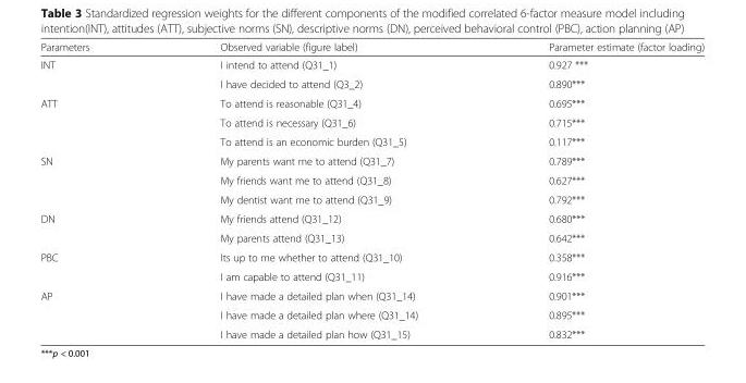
<table><thead><tr><td>Parameters</td><td>Observed variable (figure label)</td><td>Parameter estimate (factor loading)</td></tr></thead><tbody><tr><td rowspan="2">INT</td><td>I intend to attend (Q31_1)</td><td>0.927 ***</td></tr><tr><td>I have decided to attend (Q3_2)</td><td>0.890***</td></tr><tr><td rowspan="3">ATT</td><td>To attend is reasonable (Q31_4)</td><td>0.695***</td></tr><tr><td>To attend is necessary (Q31_6)</td><td>0.715***</td></tr><tr><td>To attend is an economic burden (Q31_5)</td><td>0.117***</td></tr><tr><td rowspan="3">SN</td><td>My parents want me to attend (Q31_7)</td><td>0.789***</td></tr><tr><td>My friends want me to attend (Q31_8)</td><td>0.627***</td></tr><tr><td>My dentist want me to attend (Q31_9)</td><td>0.792***</td></tr><tr><td rowspan="2">DN</td><td>My friends attend (Q31_12)</td><td>0.680***</td></tr><tr><td>My parents attend (Q31_13)</td><td>0.642***</td></tr><tr><td rowspan="2">PBC</td><td>Its up to me whether to attend (Q31_10)</td><td>0.358***</td></tr><tr><td>I am capable to attend (Q31_11)</td><td>0.916***</td></tr><tr><td rowspan="3">AP</td><td>I have made a detailed plan when (Q31_14)</td><td>0.901***</td></tr><tr><td>I have made a detailed plan where (Q31_14)</td><td>0.895***</td></tr><tr><td>I have made a detailed plan how (Q31_15)</td><td>0.832***</td></tr></tbody></table>